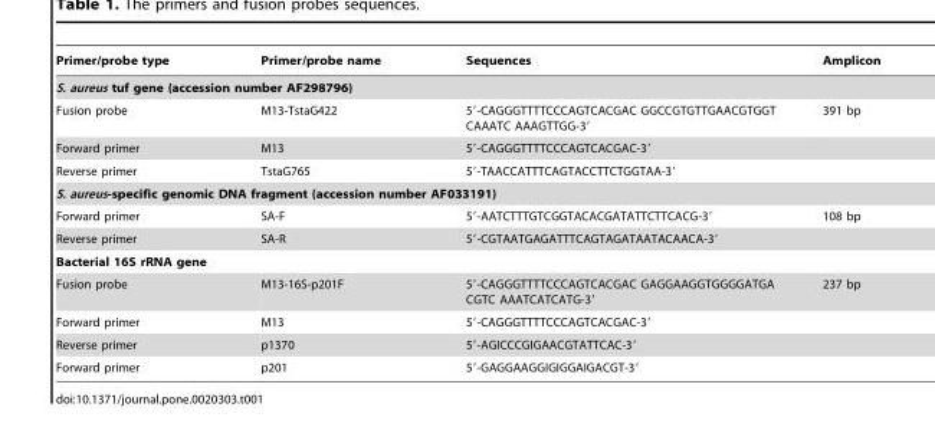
<table><thead><tr><td>Primer/probe type</td><td>Primer/probe name</td><td>Sequences</td><td>Amplicon</td></tr></thead><tbody><tr><td colspan="4">S. aureus tuf gene (accession number AF298796)</td></tr><tr><td>Fusion probe</td><td>M13-TstaG422</td><td>5′-CAGGGTTTTCCCAGTCACGAC GGCCGTGTTGAACGTGGT CAAATC AAAGTTGG-3′</td><td>391 bp</td></tr><tr><td>Forward primer</td><td>M13</td><td>5′-CAGGGTTTTCCCAGTCACGAC-3′</td><td></td></tr><tr><td>Reverse primer</td><td>TstaG765</td><td>5′-TAACCATTTCAGTACCTTCTGGTAA-3′</td><td></td></tr><tr><td colspan="4">S. aureus-specific genomic DNA fragment (accession number AF033191)</td></tr><tr><td>Forward primer</td><td>SA-F</td><td>5′-AATCTTTGTCGGTACACGATATTCTTCACG-3′</td><td>108 bp</td></tr><tr><td>Reverse primer</td><td>SA-R</td><td>5′-CGTAATGAGATTTCAGTAGATAATACAACA-3′</td><td></td></tr><tr><td colspan="4">Bacterial 16S rRNA gene</td></tr><tr><td>Fusion probe</td><td>M13-16S-p201F</td><td>5′-CAGGGTTTTCCCAGTCACGAC GAGGAAGGTGGGGATGA CGTC AAATCATCATG-3′</td><td>237 bp</td></tr><tr><td>Forward primer</td><td>M13</td><td>5′-CAGGGTTTTCCCAGTCACGAC-3′</td><td></td></tr><tr><td>Reverse primer</td><td>p1370</td><td>5′-AGICCCGIGAACGTATTCAC-3′</td><td></td></tr><tr><td>Forward primer</td><td>p201</td><td>5′-GAGGAAGGIGIGGAIGACGT-3′</td><td></td></tr></tbody></table>